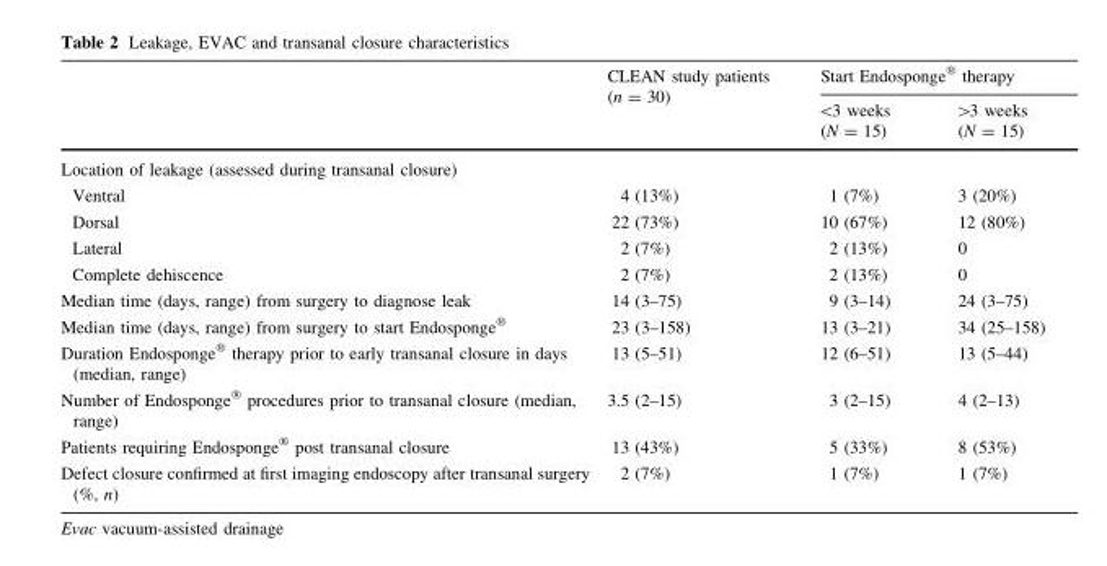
<table><thead><tr><td rowspan="2"></td><td rowspan="2">CLEAN study patients (n = 30)</td><td colspan="2">Start Endosponge<sup>®</sup> therapy</td></tr><tr><td>&lt;3 weeks (N = 15)</td><td>&gt;3 weeks (N = 15)</td></tr></thead><tbody><tr><td colspan="4">Location of leakage (assessed during transanal closure)</td></tr><tr><td>Ventral</td><td>4 (13%)</td><td>1 (7%)</td><td>3 (20%)</td></tr><tr><td>Dorsal</td><td>22 (73%)</td><td>10 (67%)</td><td>12 (80%)</td></tr><tr><td>Lateral</td><td>2 (7%)</td><td>2 (13%)</td><td>0</td></tr><tr><td>Complete dehiscence</td><td>2 (7%)</td><td>2 (13%)</td><td>0</td></tr><tr><td>Median time (days, range) from surgery to diagnose leak</td><td>14 (3–75)</td><td>9 (3–14)</td><td>24 (3–75)</td></tr><tr><td>Median time (days, range) from surgery to start Endosponge<sup>®</sup></td><td>23 (3–158)</td><td>13 (3–21)</td><td>34 (25–158)</td></tr><tr><td>Duration Endosponge<sup>®</sup> therapy prior to early transanal closure in days (median, range)</td><td>13 (5–51)</td><td>12 (6–51)</td><td>13 (5–44)</td></tr><tr><td>Number of Endosponge<sup>®</sup> procedures prior to transanal closure (median, range)</td><td>3.5 (2–15)</td><td>3 (2–15)</td><td>4 (2–13)</td></tr><tr><td>Patients requiring Endosponge<sup>®</sup> post transanal closure</td><td>13 (43%)</td><td>5 (33%)</td><td>8 (53%)</td></tr><tr><td>Defect closure confirmed at first imaging endoscopy after transanal surgery (%, n)</td><td>2 (7%)</td><td>1 (7%)</td><td>1 (7%)</td></tr></tbody></table>